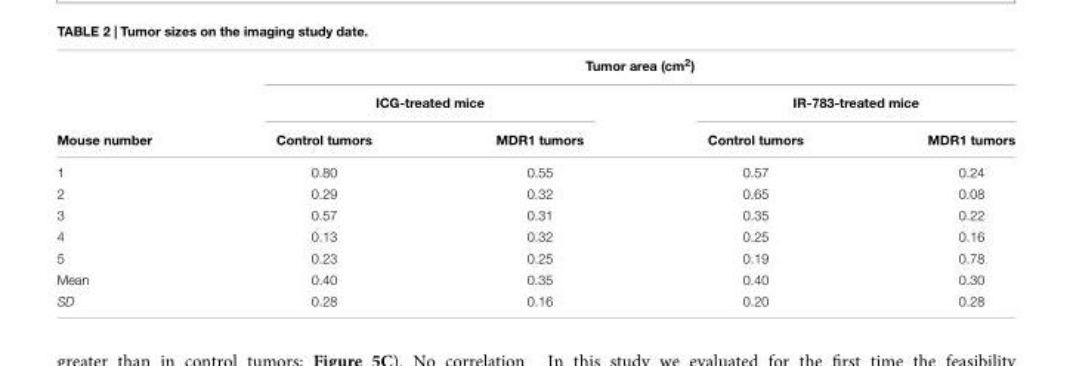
<table><thead><tr><td rowspan="3">Mouse number</td><td colspan="4">Tumor area (cm<sup>2</sup>)</td></tr><tr><td colspan="2">ICG-treated mice</td><td colspan="2">IR-783-treated mice</td></tr><tr><td>Control tumors</td><td>MDR1 tumors</td><td>Control tumors</td><td>MDR1 tumors</td></tr></thead><tbody><tr><td>1</td><td>0.80</td><td>0.55</td><td>0.57</td><td>0.24</td></tr><tr><td>2</td><td>0.29</td><td>0.32</td><td>0.65</td><td>0.08</td></tr><tr><td>3</td><td>0.57</td><td>0.31</td><td>0.35</td><td>0.22</td></tr><tr><td>4</td><td>0.13</td><td>0.32</td><td>0.25</td><td>0.16</td></tr><tr><td>5</td><td>0.23</td><td>0.25</td><td>0.19</td><td>0.78</td></tr><tr><td>Mean</td><td>0.40</td><td>0.35</td><td>0.40</td><td>0.30</td></tr><tr><td>SD</td><td>0.28</td><td>0.16</td><td>0.20</td><td>0.28</td></tr></tbody></table>